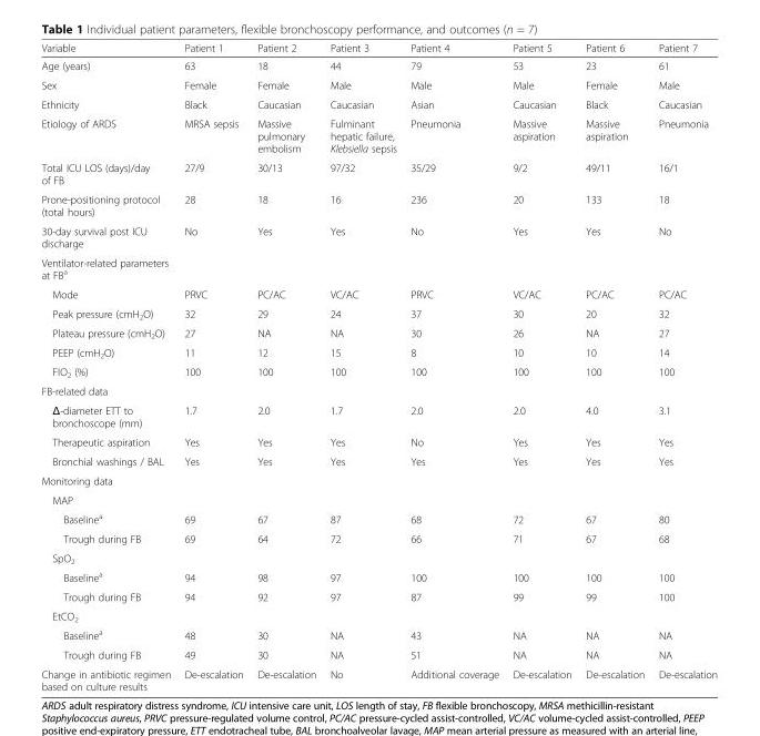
<table><thead><tr><td>Variable</td><td>Patient 1</td><td>Patient 2</td><td>Patient 3</td><td>Patient 4</td><td>Patient 5</td><td>Patient 6</td><td>Patient 7</td></tr></thead><tbody><tr><td>Age (years)</td><td>63</td><td>18</td><td>44</td><td>79</td><td>53</td><td>23</td><td>61</td></tr><tr><td>Sex</td><td>Female</td><td>Female</td><td>Male</td><td>Male</td><td>Male</td><td>Female</td><td>Male</td></tr><tr><td>Ethnicity</td><td>Black</td><td>Caucasian</td><td>Caucasian</td><td>Asian</td><td>Caucasian</td><td>Black</td><td>Caucasian</td></tr><tr><td>Etiology of ARDS</td><td>MRSA sepsis</td><td>Massive pulmonary embolism</td><td>Fulminant hepatic failure, Klebsiella sepsis</td><td>Pneumonia</td><td>Massive aspiration</td><td>Massive aspiration</td><td>Pneumonia</td></tr><tr><td>Total ICU LOS (days)/day of FB</td><td>27/9</td><td>30/13</td><td>97/32</td><td>35/29</td><td>9/2</td><td>49/11</td><td>16/1</td></tr><tr><td>Prone-positioning protocol (total hours)</td><td>28</td><td>18</td><td>16</td><td>236</td><td>20</td><td>133</td><td>18</td></tr><tr><td>30-day survival post ICU discharge</td><td>No</td><td>Yes</td><td>Yes</td><td>No</td><td>Yes</td><td>Yes</td><td>No</td></tr><tr><td colspan="8">Ventilator-related parameters at FB<sup>a</sup></td></tr><tr><td>Mode</td><td>PRVC</td><td>PC/AC</td><td>VC/AC</td><td>PRVC</td><td>VC/AC</td><td>PC/AC</td><td>PC/AC</td></tr><tr><td>Peak pressure (cmH<sub>2</sub>O)</td><td>32</td><td>29</td><td>24</td><td>37</td><td>30</td><td>20</td><td>32</td></tr><tr><td>Plateau pressure (cmH<sub>2</sub>O)</td><td>27</td><td>NA</td><td>NA</td><td>30</td><td>26</td><td>NA</td><td>27</td></tr><tr><td>PEEP (cmH<sub>2</sub>O)</td><td>11</td><td>12</td><td>15</td><td>8</td><td>10</td><td>10</td><td>14</td></tr><tr><td>FIO<sub>2</sub> (%)</td><td>100</td><td>100</td><td>100</td><td>100</td><td>100</td><td>100</td><td>100</td></tr><tr><td colspan="8">FB-related data</td></tr><tr><td>Δ-diameter ETT to bronchoscope (mm)</td><td>1.7</td><td>2.0</td><td>1.7</td><td>2.0</td><td>2.0</td><td>4.0</td><td>3.1</td></tr><tr><td>Therapeutic aspiration</td><td>Yes</td><td>Yes</td><td>Yes</td><td>No</td><td>Yes</td><td>Yes</td><td>Yes</td></tr><tr><td>Bronchial washings / BAL</td><td>Yes</td><td>Yes</td><td>Yes</td><td>Yes</td><td>Yes</td><td>Yes</td><td>Yes</td></tr><tr><td colspan="8">Monitoring data</td></tr><tr><td colspan="8">MAP</td></tr><tr><td>Baseline<sup>a</sup></td><td>69</td><td>67</td><td>87</td><td>68</td><td>72</td><td>67</td><td>80</td></tr><tr><td>Trough during FB</td><td>69</td><td>64</td><td>72</td><td>66</td><td>71</td><td>67</td><td>68</td></tr><tr><td colspan="8">SpO<sub>2</sub></td></tr><tr><td>Baseline<sup>a</sup></td><td>94</td><td>98</td><td>97</td><td>100</td><td>100</td><td>100</td><td>100</td></tr><tr><td>Trough during FB</td><td>94</td><td>92</td><td>97</td><td>87</td><td>99</td><td>99</td><td>100</td></tr><tr><td colspan="8">EtCO<sub>2</sub></td></tr><tr><td>Baseline<sup>a</sup></td><td>48</td><td>30</td><td>NA</td><td>43</td><td>NA</td><td>NA</td><td>NA</td></tr><tr><td>Trough during FB</td><td>49</td><td>30</td><td>NA</td><td>51</td><td>NA</td><td>NA</td><td>NA</td></tr><tr><td>Change in antibiotic regimen based on culture results</td><td>De-escalation</td><td>De-escalation</td><td>No</td><td>Additional coverage</td><td>De-escalation</td><td>De-escalation</td><td>De-escalation</td></tr></tbody></table>